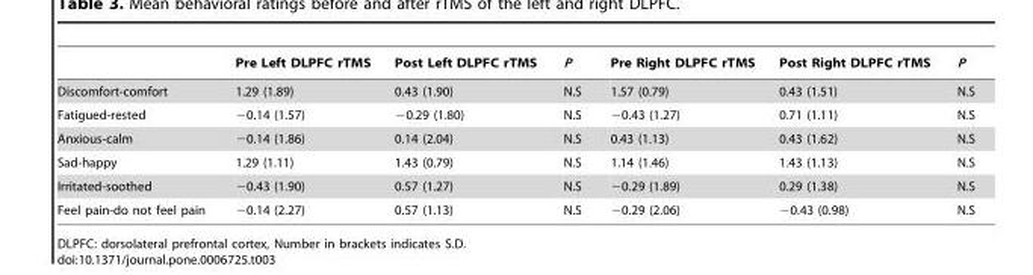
<table><thead><tr><td></td><td>Pre Left DLPFC rTMS</td><td>Post Left DLPFC rTMS</td><td>P</td><td>Pre Right DLPFC rTMS</td><td>Post Right DLPFC rTMS</td><td>P</td></tr></thead><tbody><tr><td>Discomfort-comfort</td><td>1.29 (1.89)</td><td>0.43 (1.90)</td><td>N.S</td><td>1.57 (0.79)</td><td>0.43 (1.51)</td><td>N.S</td></tr><tr><td>Fatigued-rested</td><td>−0.14 (1.57)</td><td>−0.29 (1.80)</td><td>N.S</td><td>−0.43 (1.27)</td><td>0.71 (1.11)</td><td>N.S</td></tr><tr><td>Anxious-calm</td><td>−0.14 (1.86)</td><td>0.14 (2.04)</td><td>N.S</td><td>0.43 (1.13)</td><td>0.43 (1.62)</td><td>N.S</td></tr><tr><td>Sad-happy</td><td>1.29 (1.11)</td><td>1.43 (0.79)</td><td>N.S</td><td>1.14 (1.46)</td><td>1.43 (1.13)</td><td>N.S</td></tr><tr><td>Irritated-soothed</td><td>−0.43 (1.90)</td><td>0.57 (1.27)</td><td>N.S</td><td>−0.29 (1.89)</td><td>0.29 (1.38)</td><td>N.S</td></tr><tr><td>Feel pain-do not feel pain</td><td>−0.14 (2.27)</td><td>0.57 (1.13)</td><td>N.S</td><td>−0.29 (2.06)</td><td>−0.43 (0.98)</td><td>N.S</td></tr></tbody></table>